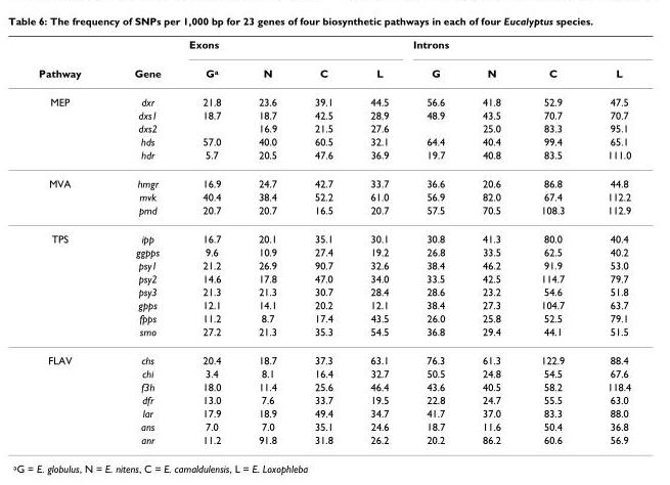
<table><thead><tr><td rowspan="2">Pathway</td><td rowspan="2">Gene</td><td colspan="4">Exons</td><td colspan="4">Introns</td></tr><tr><td>G<sup>a</sup></td><td>N</td><td>C</td><td>L</td><td>G</td><td>N</td><td>C</td><td>L</td></tr></thead><tbody><tr><td rowspan="5">MEP</td><td>dxr</td><td>21.8</td><td>23.6</td><td>39.1</td><td>44.5</td><td>56.6</td><td>41.8</td><td>52.9</td><td>47.5</td></tr><tr><td>dxs1</td><td>18.7</td><td>18.7</td><td>42.5</td><td>28.9</td><td>48.9</td><td>43.5</td><td>70.7</td><td>70.7</td></tr><tr><td>dxs2</td><td></td><td>16.9</td><td>21.5</td><td>27.6</td><td></td><td>25.0</td><td>83.3</td><td>95.1</td></tr><tr><td>hds</td><td>57.0</td><td>40.0</td><td>60.5</td><td>32.1</td><td>64.4</td><td>40.4</td><td>99.4</td><td>65.1</td></tr><tr><td>hdr</td><td>5.7</td><td>20.5</td><td>47.6</td><td>36.9</td><td>19.7</td><td>40.8</td><td>83.5</td><td>111.0</td></tr><tr><td rowspan="3">MVA</td><td>hmgr</td><td>16.9</td><td>24.7</td><td>42.7</td><td>33.7</td><td>36.6</td><td>20.6</td><td>86.8</td><td>44.8</td></tr><tr><td>mvk</td><td>40.4</td><td>38.4</td><td>52.2</td><td>61.0</td><td>56.9</td><td>82.0</td><td>67.4</td><td>112.2</td></tr><tr><td>pmd</td><td>20.7</td><td>20.7</td><td>16.5</td><td>20.7</td><td>57.5</td><td>70.5</td><td>108.3</td><td>112.9</td></tr><tr><td rowspan="8">TPS</td><td>ipp</td><td>16.7</td><td>20.1</td><td>35.1</td><td>30.1</td><td>30.8</td><td>41.3</td><td>80.0</td><td>40.4</td></tr><tr><td>ggpps</td><td>9.6</td><td>10.9</td><td>27.4</td><td>19.2</td><td>26.8</td><td>33.5</td><td>62.5</td><td>40.2</td></tr><tr><td>psy1</td><td>21.2</td><td>26.9</td><td>90.7</td><td>32.6</td><td>38.4</td><td>46.2</td><td>91.9</td><td>53.0</td></tr><tr><td>psy2</td><td>14.6</td><td>17.8</td><td>47.0</td><td>34.0</td><td>33.5</td><td>42.5</td><td>114.7</td><td>79.7</td></tr><tr><td>psy3</td><td>21.3</td><td>21.3</td><td>30.7</td><td>28.4</td><td>28.6</td><td>23.2</td><td>54.6</td><td>51.8</td></tr><tr><td>gpps</td><td>12.1</td><td>14.1</td><td>20.2</td><td>12.1</td><td>38.4</td><td>27.3</td><td>104.7</td><td>63.7</td></tr><tr><td>fpps</td><td>11.2</td><td>8.7</td><td>17.4</td><td>43.5</td><td>26.0</td><td>25.8</td><td>52.5</td><td>79.1</td></tr><tr><td>smo</td><td>27.2</td><td>21.3</td><td>35.3</td><td>54.5</td><td>36.8</td><td>29.4</td><td>44.1</td><td>51.5</td></tr><tr><td rowspan="7">FLAV</td><td>chs</td><td>20.4</td><td>18.7</td><td>37.3</td><td>63.1</td><td>76.3</td><td>61.3</td><td>122.9</td><td>88.4</td></tr><tr><td>chi</td><td>3.4</td><td>8.1</td><td>16.4</td><td>32.7</td><td>50.5</td><td>24.8</td><td>54.5</td><td>67.6</td></tr><tr><td>f3h</td><td>18.0</td><td>11.4</td><td>25.6</td><td>46.4</td><td>43.6</td><td>40.5</td><td>58.2</td><td>118.4</td></tr><tr><td>dfr</td><td>13.0</td><td>7.6</td><td>33.7</td><td>19.5</td><td>22.8</td><td>24.7</td><td>55.5</td><td>63.0</td></tr><tr><td>lar</td><td>17.9</td><td>18.9</td><td>49.4</td><td>34.7</td><td>41.7</td><td>37.0</td><td>83.3</td><td>88.0</td></tr><tr><td>ans</td><td>7.0</td><td>7.0</td><td>35.1</td><td>24.6</td><td>18.7</td><td>11.6</td><td>50.4</td><td>36.8</td></tr><tr><td>anr</td><td>11.2</td><td>91.8</td><td>31.8</td><td>26.2</td><td>20.2</td><td>86.2</td><td>60.6</td><td>56.9</td></tr></tbody></table>